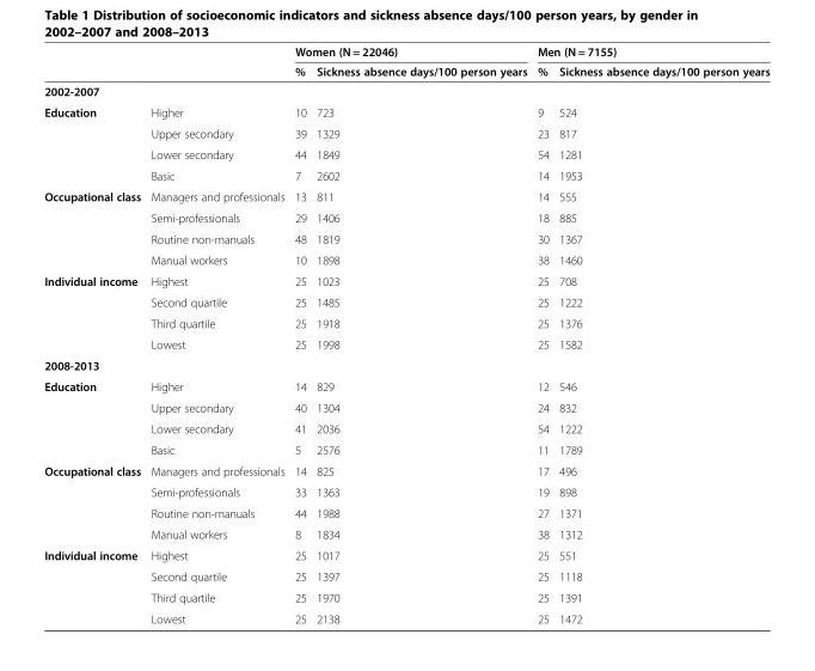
<table><thead><tr><td rowspan="2"></td><td rowspan="2"></td><td colspan="2">Women (N = 22046)</td><td colspan="2">Men (N = 7155)</td></tr><tr><td>%</td><td>Sickness absence days/100 person years</td><td>%</td><td>Sickness absence days/100 person years</td></tr></thead><tbody><tr><td colspan="6">2002-2007</td></tr><tr><td rowspan="4">Education</td><td>Higher</td><td>10</td><td>723</td><td>9</td><td>524</td></tr><tr><td>Upper secondary</td><td>39</td><td>1329</td><td>23</td><td>817</td></tr><tr><td>Lower secondary</td><td>44</td><td>1849</td><td>54</td><td>1281</td></tr><tr><td>Basic</td><td>7</td><td>2602</td><td>14</td><td>1953</td></tr><tr><td rowspan="4">Occupational class</td><td>Managers and professionals</td><td>13</td><td>811</td><td>14</td><td>555</td></tr><tr><td>Semi-professionals</td><td>29</td><td>1406</td><td>18</td><td>885</td></tr><tr><td>Routine non-manuals</td><td>48</td><td>1819</td><td>30</td><td>1367</td></tr><tr><td>Manual workers</td><td>10</td><td>1898</td><td>38</td><td>1460</td></tr><tr><td rowspan="4">Individual income</td><td>Highest</td><td>25</td><td>1023</td><td>25</td><td>708</td></tr><tr><td>Second quartile</td><td>25</td><td>1485</td><td>25</td><td>1222</td></tr><tr><td>Third quartile</td><td>25</td><td>1918</td><td>25</td><td>1376</td></tr><tr><td>Lowest</td><td>25</td><td>1998</td><td>25</td><td>1582</td></tr><tr><td colspan="6">2008-2013</td></tr><tr><td rowspan="4">Education</td><td>Higher</td><td>14</td><td>829</td><td>12</td><td>546</td></tr><tr><td>Upper secondary</td><td>40</td><td>1304</td><td>24</td><td>832</td></tr><tr><td>Lower secondary</td><td>41</td><td>2036</td><td>54</td><td>1222</td></tr><tr><td>Basic</td><td>5</td><td>2576</td><td>11</td><td>1789</td></tr><tr><td rowspan="4">Occupational class</td><td>Managers and professionals</td><td>14</td><td>825</td><td>17</td><td>496</td></tr><tr><td>Semi-professionals</td><td>33</td><td>1363</td><td>19</td><td>898</td></tr><tr><td>Routine non-manuals</td><td>44</td><td>1988</td><td>27</td><td>1371</td></tr><tr><td>Manual workers</td><td>8</td><td>1834</td><td>38</td><td>1312</td></tr><tr><td rowspan="4">Individual income</td><td>Highest</td><td>25</td><td>1017</td><td>25</td><td>551</td></tr><tr><td>Second quartile</td><td>25</td><td>1397</td><td>25</td><td>1118</td></tr><tr><td>Third quartile</td><td>25</td><td>1970</td><td>25</td><td>1391</td></tr><tr><td>Lowest</td><td>25</td><td>2138</td><td>25</td><td>1472</td></tr></tbody></table>